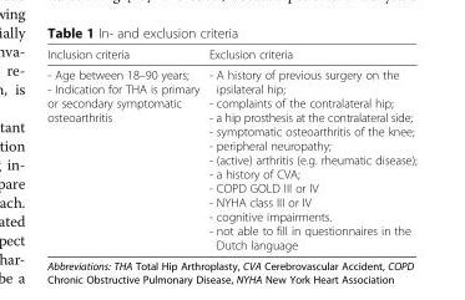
<table><thead><tr><td>Inclusion criteria</td><td>Exclusion criteria</td></tr></thead><tbody><tr><td>- Age between 18–90 years; - Indication for THA is primary or secondary symptomatic osteoarthritis</td><td>- A history of previous surgery on the ipsilateral hip; - complaints of the contralateral hip; - a hip prosthesis at the contralateral side; - symptomatic osteoarthritis of the knee; - peripheral neuropathy; - (active) arthritis (e.g. rheumatic disease); - a history of CVA; - COPD GOLD III or IV - NYHA class III or IV - cognitive impairments. - not able to fill in questionnaires in the Dutch language</td></tr></tbody></table>